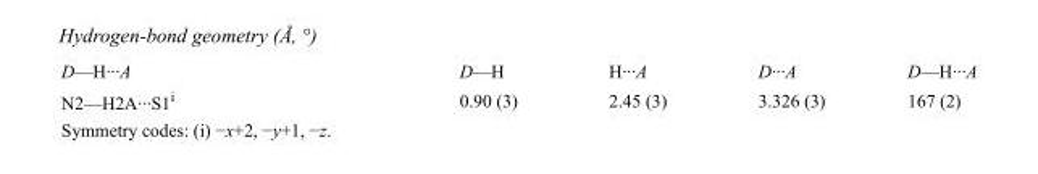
<table><tbody><tr><td>D—H···A</td><td>D—H</td><td>H···A</td><td>D···A</td><td>D—H···A</td></tr><tr><td>N2—H2A···S1<sup>i</sup></td><td>0.90 (3)</td><td>2.45 (3)</td><td>3.326 (3)</td><td>167 (2)</td></tr></tbody></table>